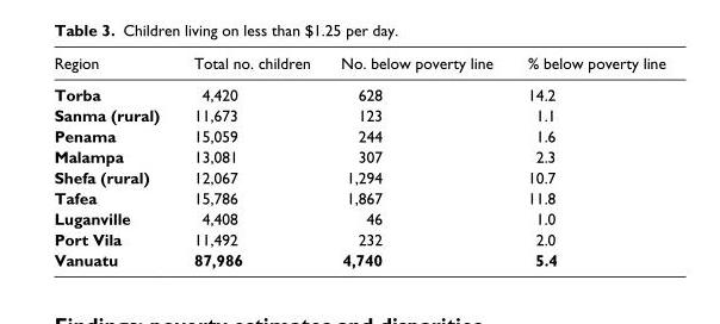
<table><thead><tr><td>Region</td><td>Total no. children</td><td>No. below poverty line</td><td>% below poverty line</td></tr></thead><tbody><tr><td>Torba</td><td>4,420</td><td>628</td><td>14.2</td></tr><tr><td>Sanma (rural)</td><td>11,673</td><td>123</td><td>1.1</td></tr><tr><td>Penama</td><td>15,059</td><td>244</td><td>1.6</td></tr><tr><td>Malampa</td><td>13,081</td><td>307</td><td>2.3</td></tr><tr><td>Shefa (rural)</td><td>12,067</td><td>1,294</td><td>10.7</td></tr><tr><td>Tafea</td><td>15,786</td><td>1,867</td><td>11.8</td></tr><tr><td>Luganville</td><td>4,408</td><td>46</td><td>1.0</td></tr><tr><td>Port Vila</td><td>11,492</td><td>232</td><td>2.0</td></tr><tr><td>Vanuatu</td><td>87,986</td><td>4,740</td><td>5.4</td></tr></tbody></table>